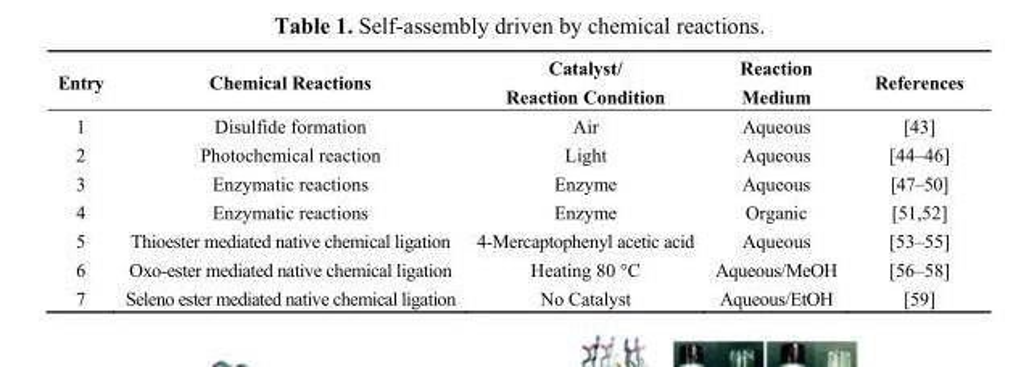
<table><thead><tr><td>Entry</td><td>Chemical Reactions</td><td>Catalyst/ Reaction Condition</td><td>Reaction Medium</td><td>References</td></tr></thead><tbody><tr><td>1</td><td>Disulfide formation</td><td>Air</td><td>Aqueous</td><td>[43]</td></tr><tr><td>2</td><td>Photochemical reaction</td><td>Light</td><td>Aqueous</td><td>[44–46]</td></tr><tr><td>3</td><td>Enzymatic reactions</td><td>Enzyme</td><td>Aqueous</td><td>[47–50]</td></tr><tr><td>4</td><td>Enzymatic reactions</td><td>Enzyme</td><td>Organic</td><td>[51,52]</td></tr><tr><td>5</td><td>Thioester mediated native chemical ligation</td><td>4-Mercaptophenyl acetic acid</td><td>Aqueous</td><td>[53–55]</td></tr><tr><td>6</td><td>Oxo-ester mediated native chemical ligation</td><td>Heating 80 °C</td><td>Aqueous/MeOH</td><td>[56–58]</td></tr><tr><td>7</td><td>Seleno ester mediated native chemical ligation</td><td>No Catalyst</td><td>Aqueous/EtOH</td><td>[59]</td></tr></tbody></table>